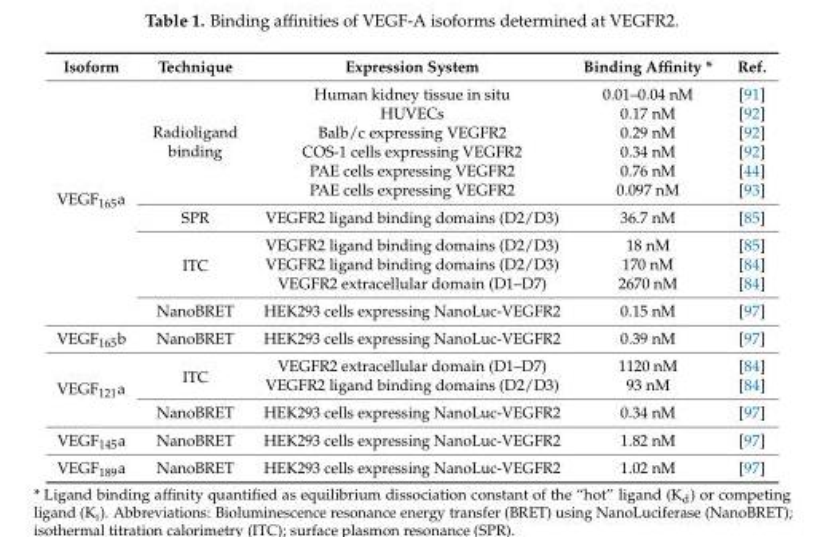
<table><thead><tr><td>Isoform</td><td>Technique</td><td>Expression System</td><td>Binding Affinity *</td><td>Ref.</td></tr></thead><tbody><tr><td rowspan="11">VEGF<sub>165</sub>a</td><td rowspan="6">Radioligand binding</td><td>Human kidney tissue in situ</td><td>0.01–0.04 nM</td><td>[91]</td></tr><tr><td>HUVECs</td><td>0.17 nM</td><td>[92]</td></tr><tr><td>Balb/c expressing VEGFR2</td><td>0.29 nM</td><td>[92]</td></tr><tr><td>COS-1 cells expressing VEGFR2</td><td>0.34 nM</td><td>[92]</td></tr><tr><td>PAE cells expressing VEGFR2</td><td>0.76 nM</td><td>[44]</td></tr><tr><td>PAE cells expressing VEGFR2</td><td>0.097 nM</td><td>[93]</td></tr><tr><td>SPR</td><td>VEGFR2 ligand binding domains (D2/D3)</td><td>36.7 nM</td><td>[85]</td></tr><tr><td rowspan="3">ITC</td><td>VEGFR2 ligand binding domains (D2/D3)</td><td>18 nM</td><td>[85]</td></tr><tr><td>VEGFR2 ligand binding domains (D2/D3)</td><td>170 nM</td><td>[84]</td></tr><tr><td>VEGFR2 extracellular domain (D1–D7)</td><td>2670 nM</td><td>[84]</td></tr><tr><td>NanoBRET</td><td>HEK293 cells expressing NanoLuc-VEGFR2</td><td>0.15 nM</td><td>[97]</td></tr><tr><td>VEGF<sub>165</sub>b</td><td>NanoBRET</td><td>HEK293 cells expressing NanoLuc-VEGFR2</td><td>0.39 nM</td><td>[97]</td></tr><tr><td rowspan="3">VEGF<sub>121</sub>a</td><td rowspan="2">ITC</td><td>VEGFR2 extracellular domain (D1–D7)</td><td>1120 nM</td><td>[84]</td></tr><tr><td>VEGFR2 ligand binding domains (D2/D3)</td><td>93 nM</td><td>[84]</td></tr><tr><td>NanoBRET</td><td>HEK293 cells expressing NanoLuc-VEGFR2</td><td>0.34 nM</td><td>[97]</td></tr><tr><td>VEGF<sub>145</sub>a</td><td>NanoBRET</td><td>HEK293 cells expressing NanoLuc-VEGFR2</td><td>1.82 nM</td><td>[97]</td></tr><tr><td>VEGF<sub>189</sub>a</td><td>NanoBRET</td><td>HEK293 cells expressing NanoLuc-VEGFR2</td><td>1.02 nM</td><td>[97]</td></tr></tbody></table>